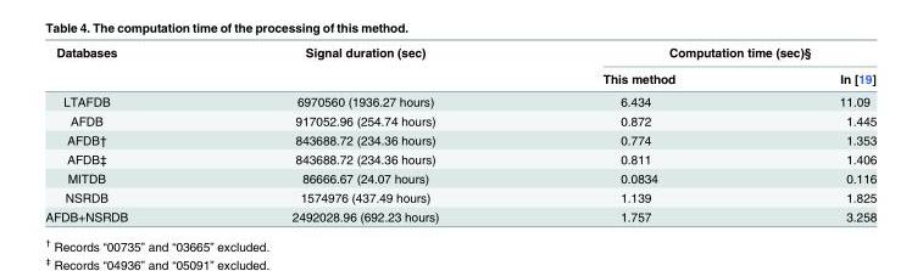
<table><thead><tr><td rowspan="2">Databases</td><td rowspan="2">Signal duration (sec)</td><td colspan="2">Computation time (sec)§</td></tr><tr><td>This method</td><td>In [19]</td></tr></thead><tbody><tr><td>LTAFDB</td><td>6970560 (1936.27 hours)</td><td>6.434</td><td>11.09</td></tr><tr><td>AFDB</td><td>917052.96 (254.74 hours)</td><td>0.872</td><td>1.445</td></tr><tr><td>AFDB†</td><td>843688.72 (234.36 hours)</td><td>0.774</td><td>1.353</td></tr><tr><td>AFDB‡</td><td>843688.72 (234.36 hours)</td><td>0.811</td><td>1.406</td></tr><tr><td>MITDB</td><td>86666.67 (24.07 hours)</td><td>0.0834</td><td>0.116</td></tr><tr><td>NSRDB</td><td>1574976 (437.49 hours)</td><td>1.139</td><td>1.825</td></tr><tr><td>AFDB+NSRDB</td><td>2492028.96 (692.23 hours)</td><td>1.757</td><td>3.258</td></tr></tbody></table>